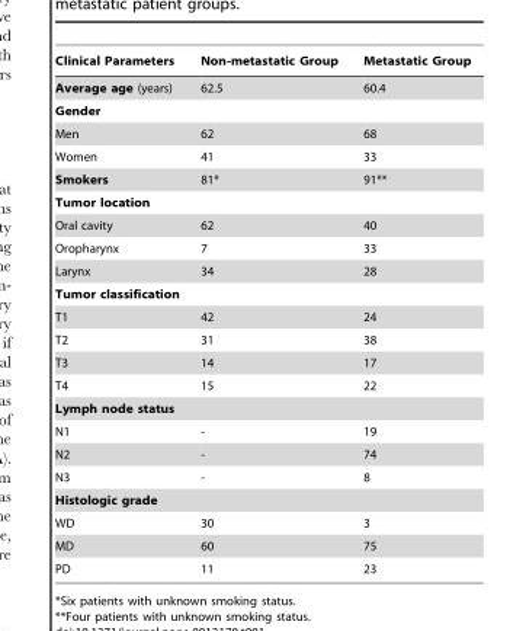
<table><thead><tr><td>Clinical Parameters</td><td>Non-metastatic Group</td><td>Metastatic Group</td></tr></thead><tbody><tr><td>Average age (years)</td><td>62.5</td><td>60.4</td></tr><tr><td colspan="3">Gender</td></tr><tr><td>Men</td><td>62</td><td>68</td></tr><tr><td>Women</td><td>41</td><td>33</td></tr><tr><td>Smokers</td><td>81*</td><td>91**</td></tr><tr><td colspan="3">Tumor location</td></tr><tr><td>Oral cavity</td><td>62</td><td>40</td></tr><tr><td>Oropharynx</td><td>7</td><td>33</td></tr><tr><td>Larynx</td><td>34</td><td>28</td></tr><tr><td colspan="3">Tumor classification</td></tr><tr><td>T1</td><td>42</td><td>24</td></tr><tr><td>T2</td><td>31</td><td>38</td></tr><tr><td>T3</td><td>14</td><td>17</td></tr><tr><td>T4</td><td>15</td><td>22</td></tr><tr><td colspan="3">Lymph node status</td></tr><tr><td>N1</td><td>-</td><td>19</td></tr><tr><td>N2</td><td>-</td><td>74</td></tr><tr><td>N3</td><td>-</td><td>8</td></tr><tr><td colspan="3">Histologic grade</td></tr><tr><td>WD</td><td>30</td><td>3</td></tr><tr><td>MD</td><td>60</td><td>75</td></tr><tr><td>PD</td><td>11</td><td>23</td></tr></tbody></table>